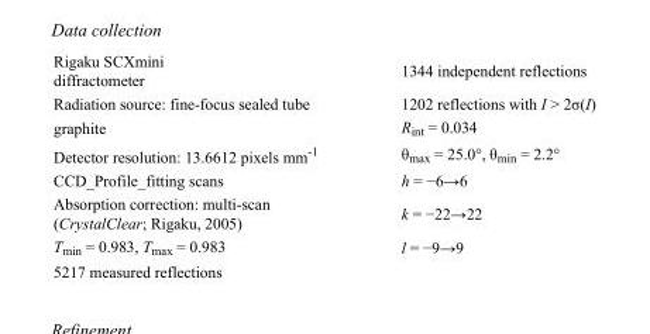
<table><tbody><tr><td>Rigaku SCXmini diffractometer</td><td>1344 independent reflections</td></tr><tr><td>Radiation source: fine-focus sealed tube</td><td>1202 reflections with I &gt; 2σ(I)</td></tr><tr><td>graphite</td><td>R<sub>int</sub> = 0.034</td></tr><tr><td>Detector resolution: 13.6612 pixels mm<sup>-1</sup></td><td>θ<sub>max</sub> = 25.0°, θ<sub>min</sub> = 2.2°</td></tr><tr><td>CCD_Profile_fitting scans</td><td>h = −6→6</td></tr><tr><td>Absorption correction: multi-scan (CrystalClear; Rigaku, 2005)</td><td>k = −22→22</td></tr><tr><td>T<sub>min</sub> = 0.983, T<sub>max</sub> = 0.983</td><td>l = −9→9</td></tr><tr><td>5217 measured reflections</td><td></td></tr></tbody></table>